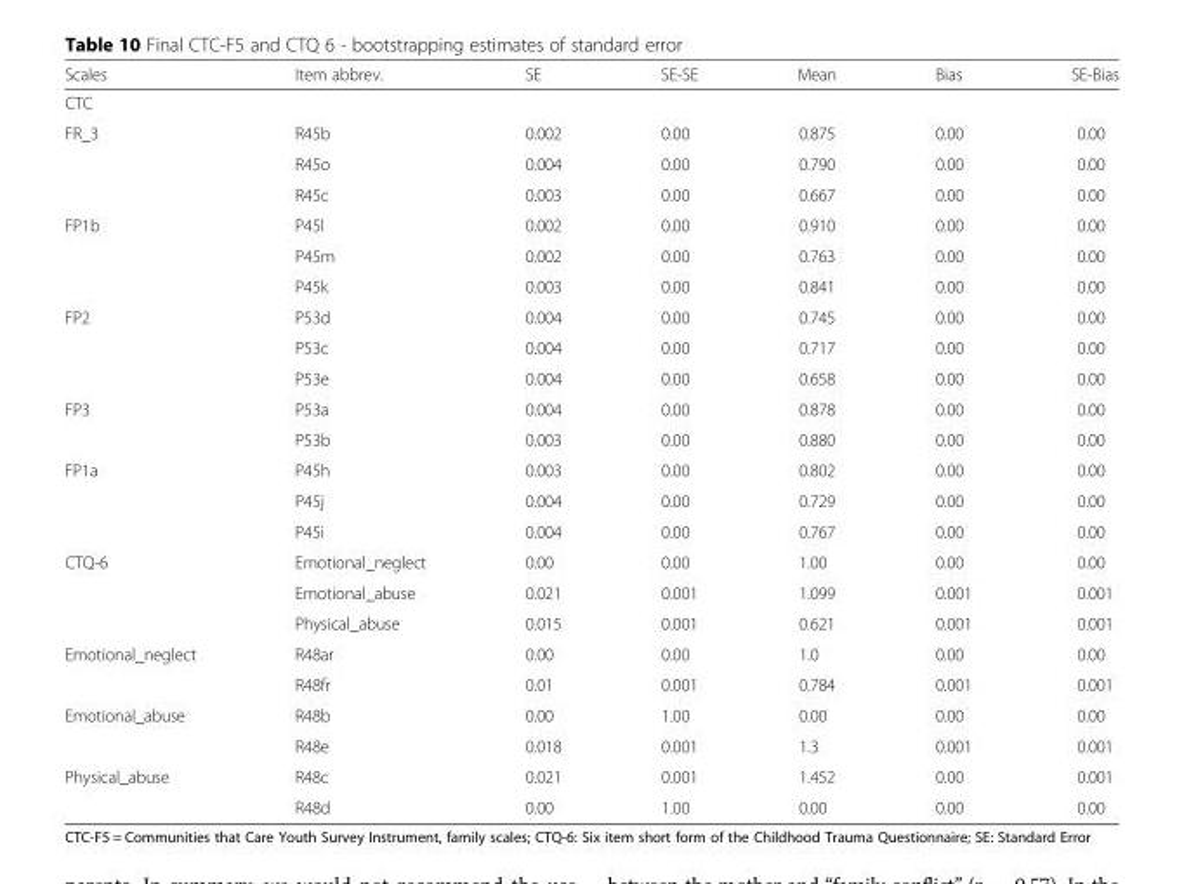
<table><thead><tr><td>Scales</td><td>Item abbrev.</td><td>SE</td><td>SE-SE</td><td>Mean</td><td>Bias</td><td>SE-Bias</td></tr></thead><tbody><tr><td colspan="7">CTC</td></tr><tr><td rowspan="3">FR_3</td><td>R45b</td><td>0.002</td><td>0.00</td><td>0.875</td><td>0.00</td><td>0.00</td></tr><tr><td>R45o</td><td>0.004</td><td>0.00</td><td>0.790</td><td>0.00</td><td>0.00</td></tr><tr><td>R45c</td><td>0.003</td><td>0.00</td><td>0.667</td><td>0.00</td><td>0.00</td></tr><tr><td rowspan="3">FP1b</td><td>P45l</td><td>0.002</td><td>0.00</td><td>0.910</td><td>0.00</td><td>0.00</td></tr><tr><td>P45m</td><td>0.002</td><td>0.00</td><td>0.763</td><td>0.00</td><td>0.00</td></tr><tr><td>P45k</td><td>0.003</td><td>0.00</td><td>0.841</td><td>0.00</td><td>0.00</td></tr><tr><td rowspan="3">FP2</td><td>P53d</td><td>0.004</td><td>0.00</td><td>0.745</td><td>0.00</td><td>0.00</td></tr><tr><td>P53c</td><td>0.004</td><td>0.00</td><td>0.717</td><td>0.00</td><td>0.00</td></tr><tr><td>P53e</td><td>0.004</td><td>0.00</td><td>0.658</td><td>0.00</td><td>0.00</td></tr><tr><td rowspan="2">FP3</td><td>P53a</td><td>0.004</td><td>0.00</td><td>0.878</td><td>0.00</td><td>0.00</td></tr><tr><td>P53b</td><td>0.003</td><td>0.00</td><td>0.880</td><td>0.00</td><td>0.00</td></tr><tr><td rowspan="3">FP1a</td><td>P45h</td><td>0.003</td><td>0.00</td><td>0.802</td><td>0.00</td><td>0.00</td></tr><tr><td>P45j</td><td>0.004</td><td>0.00</td><td>0.729</td><td>0.00</td><td>0.00</td></tr><tr><td>P45i</td><td>0.004</td><td>0.00</td><td>0.767</td><td>0.00</td><td>0.00</td></tr><tr><td rowspan="3">CTQ-6</td><td>Emotional_neglect</td><td>0.00</td><td>0.00</td><td>1.00</td><td>0.00</td><td>0.00</td></tr><tr><td>Emotional_abuse</td><td>0.021</td><td>0.001</td><td>1.099</td><td>0.001</td><td>0.001</td></tr><tr><td>Physical_abuse</td><td>0.015</td><td>0.001</td><td>0.621</td><td>0.001</td><td>0.001</td></tr><tr><td rowspan="2">Emotional_neglect</td><td>R48ar</td><td>0.00</td><td>0.00</td><td>1.0</td><td>0.00</td><td>0.00</td></tr><tr><td>R48fr</td><td>0.01</td><td>0.001</td><td>0.784</td><td>0.001</td><td>0.001</td></tr><tr><td rowspan="2">Emotional_abuse</td><td>R48b</td><td>0.00</td><td>1.00</td><td>0.00</td><td>0.00</td><td>0.00</td></tr><tr><td>R48e</td><td>0.018</td><td>0.001</td><td>1.3</td><td>0.001</td><td>0.001</td></tr><tr><td rowspan="2">Physical_abuse</td><td>R48c</td><td>0.021</td><td>0.001</td><td>1.452</td><td>0.00</td><td>0.001</td></tr><tr><td>R48d</td><td>0.00</td><td>1.00</td><td>0.00</td><td>0.00</td><td>0.00</td></tr></tbody></table>